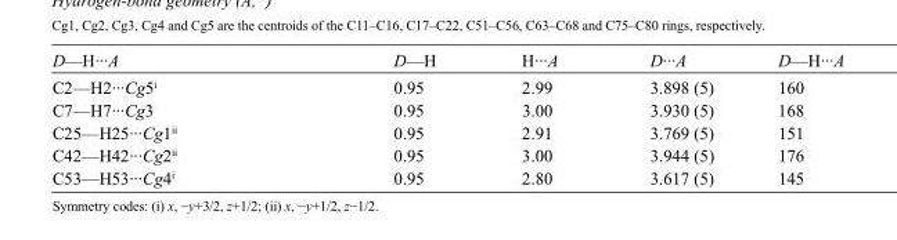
<table><tbody><tr><td>D—H···A</td><td>D—H</td><td>H···A</td><td>D···A</td><td>D—H···A</td></tr><tr><td>C2—H2···Cg5<sup>i</sup></td><td>0.95</td><td>2.99</td><td>3.898 (5)</td><td>160</td></tr><tr><td>C7—H7···Cg3</td><td>0.95</td><td>3.00</td><td>3.930 (5)</td><td>168</td></tr><tr><td>C25—H25···Cg1<sup>ii</sup></td><td>0.95</td><td>2.91</td><td>3.769 (5)</td><td>151</td></tr><tr><td>C42—H42···Cg2<sup>ii</sup></td><td>0.95</td><td>3.00</td><td>3.944 (5)</td><td>176</td></tr><tr><td>C53—H53···Cg4<sup>i</sup></td><td>0.95</td><td>2.80</td><td>3.617 (5)</td><td>145</td></tr></tbody></table>